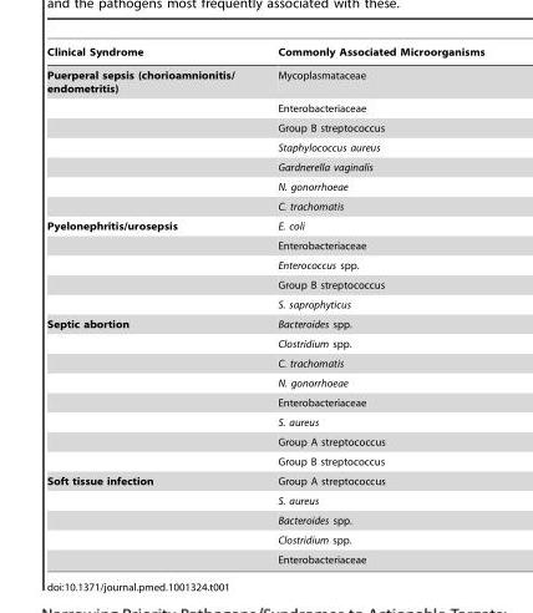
<table><thead><tr><td>Clinical Syndrome</td><td>Commonly Associated Microorganisms</td></tr></thead><tbody><tr><td rowspan="7">Puerperal sepsis (chorioamnionitis/ endometritis)</td><td>Mycoplasmataceae</td></tr><tr><td>Enterobacteriaceae</td></tr><tr><td>Group B streptococcus</td></tr><tr><td>Staphylococcus aureus</td></tr><tr><td>Gardnerella vaginalis</td></tr><tr><td>N. gonorrhoeae</td></tr><tr><td>C. trachomatis</td></tr><tr><td rowspan="5">Pyelonephritis/urosepsis</td><td>E. coli</td></tr><tr><td>Enterobacteriaceae</td></tr><tr><td>Enterococcus spp.</td></tr><tr><td>Group B streptococcus</td></tr><tr><td>S. saprophyticus</td></tr><tr><td rowspan="8">Septic abortion</td><td>Bacteroides spp.</td></tr><tr><td>Clostridium spp.</td></tr><tr><td>C. trachomatis</td></tr><tr><td>N. gonorrhoeae</td></tr><tr><td>Enterobacteriaceae</td></tr><tr><td>S. aureus</td></tr><tr><td>Group A streptococcus</td></tr><tr><td>Group B streptococcus</td></tr><tr><td rowspan="5">Soft tissue infection</td><td>Group A streptococcus</td></tr><tr><td>S. aureus</td></tr><tr><td>Bacteroides spp.</td></tr><tr><td>Clostridium spp.</td></tr><tr><td>Enterobacteriaceae</td></tr></tbody></table>